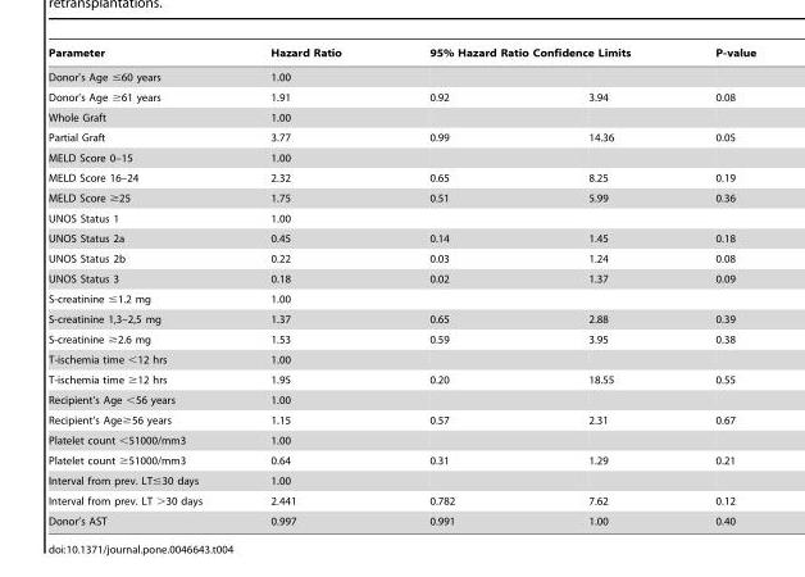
<table><thead><tr><td rowspan="2">Parameter Donor’s Age ≤60 years</td><td rowspan="2">Hazard Ratio 1.00</td><td colspan="2">95% Hazard Ratio Confidence Limits</td><td rowspan="2">P-value</td></tr><tr><td></td><td></td></tr></thead><tbody><tr><td>Donor’s Age ≥61 years</td><td>1.91</td><td>0.92</td><td>3.94</td><td>0.08</td></tr><tr><td>Whole Graft</td><td>1.00</td><td></td><td></td><td></td></tr><tr><td>Partial Graft</td><td>3.77</td><td>0.99</td><td>14.36</td><td>0.05</td></tr><tr><td>MELD Score 0–15</td><td>1.00</td><td></td><td></td><td></td></tr><tr><td>MELD Score 16–24</td><td>2.32</td><td>0.65</td><td>8.25</td><td>0.19</td></tr><tr><td>MELD Score ≥25</td><td>1.75</td><td>0.51</td><td>5.99</td><td>0.36</td></tr><tr><td>UNOS Status 1</td><td>1.00</td><td></td><td></td><td></td></tr><tr><td>UNOS Status 2a</td><td>0.45</td><td>0.14</td><td>1.45</td><td>0.18</td></tr><tr><td>UNOS Status 2b</td><td>0.22</td><td>0.03</td><td>1.24</td><td>0.08</td></tr><tr><td>UNOS Status 3</td><td>0.18</td><td>0.02</td><td>1.37</td><td>0.09</td></tr><tr><td>S-creatinine ≤1.2 mg</td><td>1.00</td><td></td><td></td><td></td></tr><tr><td>S-creatinine 1,3–2,5 mg</td><td>1.37</td><td>0.65</td><td>2.88</td><td>0.39</td></tr><tr><td>S-creatinine ≥2.6 mg</td><td>1.53</td><td>0.59</td><td>3.95</td><td>0.38</td></tr><tr><td>T-ischemia time &lt;12 hrs</td><td>1.00</td><td></td><td></td><td></td></tr><tr><td>T-ischemia time ≥12 hrs</td><td>1.95</td><td>0.20</td><td>18.55</td><td>0.55</td></tr><tr><td>Recipient’s Age &lt;56 years</td><td>1.00</td><td></td><td></td><td></td></tr><tr><td>Recipient’s Age≥56 years</td><td>1.15</td><td>0.57</td><td>2.31</td><td>0.67</td></tr><tr><td>Platelet count &lt;51000/mm3</td><td>1.00</td><td></td><td></td><td></td></tr><tr><td>Platelet count ≥51000/mm3</td><td>0.64</td><td>0.31</td><td>1.29</td><td>0.21</td></tr><tr><td>Interval from prev. LT≤30 days</td><td>1.00</td><td></td><td></td><td></td></tr><tr><td>Interval from prev. LT &gt;30 days</td><td>2.441</td><td>0.782</td><td>7.62</td><td>0.12</td></tr><tr><td>Donor’s AST</td><td>0.997</td><td>0.991</td><td>1.00</td><td>0.40</td></tr></tbody></table>